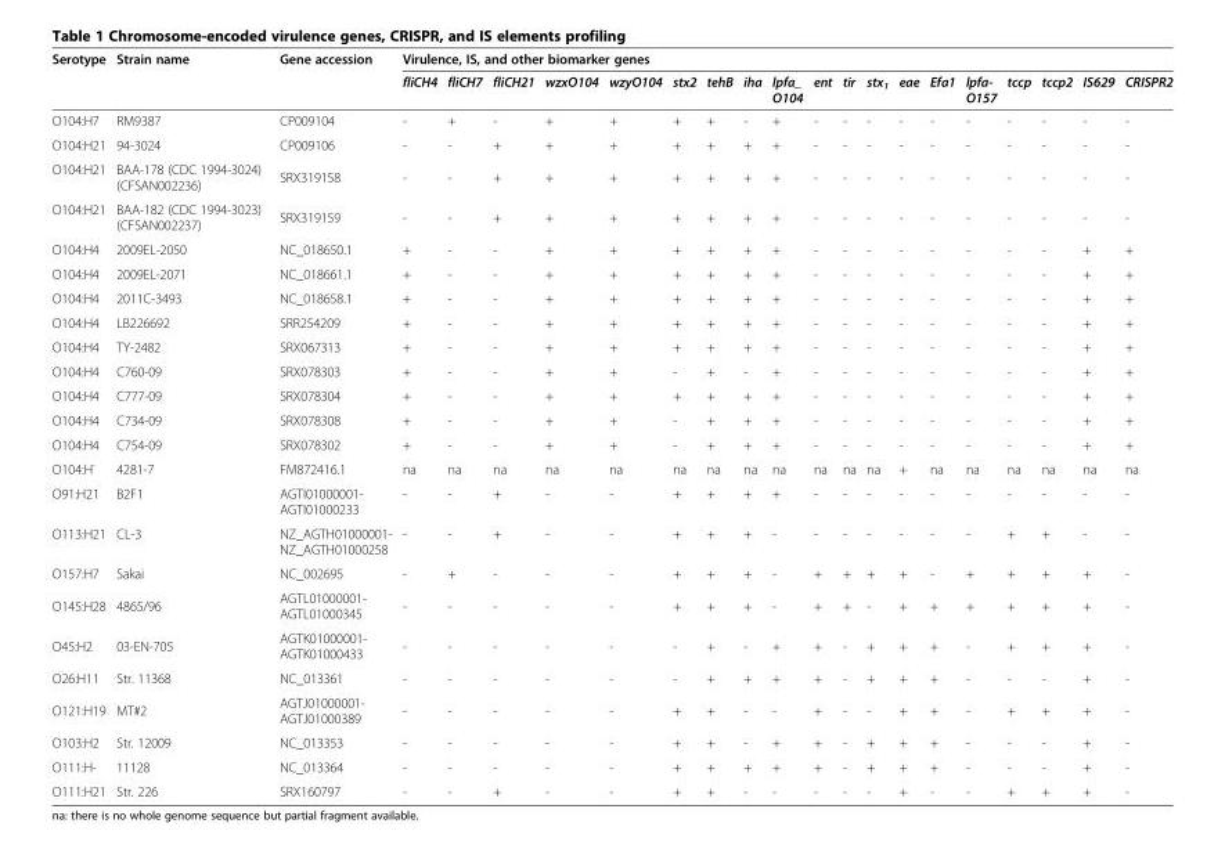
<table><thead><tr><td rowspan="2">Serotype</td><td rowspan="2">Strain name</td><td rowspan="2">Gene accession</td><td colspan="19">Virulence, IS, and other biomarker genes</td></tr><tr><td>fliCH4</td><td>fliCH7</td><td>fliCH21</td><td>wzxO104</td><td>wzyO104</td><td>stx2</td><td>tehB</td><td>iha</td><td>lpfa_ O104</td><td>ent</td><td>tir</td><td>stx<sub>1</sub></td><td>eae</td><td>Efa1</td><td>lpfa- O157</td><td>tccp</td><td>tccp2</td><td>IS629</td><td>CRISPR2</td></tr></thead><tbody><tr><td>O104:H7</td><td>RM9387</td><td>CP009104</td><td>-</td><td>+</td><td>-</td><td>+</td><td>+</td><td>+</td><td>+</td><td>-</td><td>+</td><td>-</td><td>-</td><td>-</td><td>-</td><td>-</td><td>-</td><td>-</td><td>-</td><td>-</td><td>-</td></tr><tr><td>O104:H21</td><td>94-3024</td><td>CP009106</td><td>-</td><td>-</td><td>+</td><td>+</td><td>+</td><td>+</td><td>+</td><td>+</td><td>+</td><td>-</td><td>-</td><td>-</td><td>-</td><td>-</td><td>-</td><td>-</td><td>-</td><td>-</td><td>-</td></tr><tr><td>O104:H21</td><td>BAA-178 (CDC 1994-3024) (CFSAN002236)</td><td>SRX319158</td><td>-</td><td>-</td><td>+</td><td>+</td><td>+</td><td>+</td><td>+</td><td>+</td><td>+</td><td>-</td><td>-</td><td>-</td><td>-</td><td>-</td><td>-</td><td>-</td><td>-</td><td>-</td><td>-</td></tr><tr><td>O104:H21</td><td>BAA-182 (CDC 1994-3023) (CFSAN002237)</td><td>SRX319159</td><td>-</td><td>-</td><td>+</td><td>+</td><td>+</td><td>+</td><td>+</td><td>+</td><td>+</td><td>-</td><td>-</td><td>-</td><td>-</td><td>-</td><td>-</td><td>-</td><td>-</td><td>-</td><td>-</td></tr><tr><td>O104:H4</td><td>2009EL-2050</td><td>NC_018650.1</td><td>+</td><td>-</td><td>-</td><td>+</td><td>+</td><td>+</td><td>+</td><td>+</td><td>+</td><td>-</td><td>-</td><td>-</td><td>-</td><td>-</td><td>-</td><td>-</td><td>-</td><td>+</td><td>+</td></tr><tr><td>O104:H4</td><td>2009EL-2071</td><td>NC_018661.1</td><td>+</td><td>-</td><td>-</td><td>+</td><td>+</td><td>+</td><td>+</td><td>+</td><td>+</td><td>-</td><td>-</td><td>-</td><td>-</td><td>-</td><td>-</td><td>-</td><td>-</td><td>+</td><td>+</td></tr><tr><td>O104:H4</td><td>2011C-3493</td><td>NC_018658.1</td><td>+</td><td>-</td><td>-</td><td>+</td><td>+</td><td>+</td><td>+</td><td>+</td><td>+</td><td>-</td><td>-</td><td>-</td><td>-</td><td>-</td><td>-</td><td>-</td><td>-</td><td>+</td><td>+</td></tr><tr><td>O104:H4</td><td>LB226692</td><td>SRR254209</td><td>+</td><td>-</td><td>-</td><td>+</td><td>+</td><td>+</td><td>+</td><td>+</td><td>+</td><td>-</td><td>-</td><td>-</td><td>-</td><td>-</td><td>-</td><td>-</td><td>-</td><td>+</td><td>+</td></tr><tr><td>O104:H4</td><td>TY-2482</td><td>SRX067313</td><td>+</td><td>-</td><td>-</td><td>+</td><td>+</td><td>+</td><td>+</td><td>+</td><td>+</td><td>-</td><td>-</td><td>-</td><td>-</td><td>-</td><td>-</td><td>-</td><td>-</td><td>+</td><td>+</td></tr><tr><td>O104:H4</td><td>C760-09</td><td>SRX078303</td><td>+</td><td>-</td><td>-</td><td>+</td><td>+</td><td>-</td><td>+</td><td>-</td><td>+</td><td>-</td><td>-</td><td>-</td><td>-</td><td>-</td><td>-</td><td>-</td><td>-</td><td>+</td><td>+</td></tr><tr><td>O104:H4</td><td>C777-09</td><td>SRX078304</td><td>+</td><td>-</td><td>-</td><td>+</td><td>+</td><td>+</td><td>+</td><td>+</td><td>+</td><td>-</td><td>-</td><td>-</td><td>-</td><td>-</td><td>-</td><td>-</td><td>-</td><td>+</td><td>+</td></tr><tr><td>O104:H4</td><td>C734-09</td><td>SRX078308</td><td>+</td><td>-</td><td>-</td><td>+</td><td>+</td><td>-</td><td>+</td><td>+</td><td>+</td><td>-</td><td>-</td><td>-</td><td>-</td><td>-</td><td>-</td><td>-</td><td>-</td><td>+</td><td>+</td></tr><tr><td>O104:H4</td><td>C754-09</td><td>SRX078302</td><td>+</td><td>-</td><td>-</td><td>+</td><td>+</td><td>-</td><td>+</td><td>+</td><td>+</td><td>-</td><td>-</td><td>-</td><td>-</td><td>-</td><td>-</td><td>-</td><td>-</td><td>+</td><td>+</td></tr><tr><td>O104:H<sup>-</sup></td><td>4281-7</td><td>FM872416.1</td><td>na</td><td>na</td><td>na</td><td>na</td><td>na</td><td>na</td><td>na</td><td>na</td><td>na</td><td>na</td><td>na</td><td>na</td><td>+</td><td>na</td><td>na</td><td>na</td><td>na</td><td>na</td><td>na</td></tr><tr><td>O91:H21</td><td>B2F1</td><td>AGTI01000001- AGTI01000233</td><td>-</td><td>-</td><td>+</td><td>-</td><td>-</td><td>+</td><td>+</td><td>+</td><td>+</td><td>-</td><td>-</td><td>-</td><td>-</td><td>-</td><td>-</td><td>-</td><td>-</td><td>-</td><td>-</td></tr><tr><td>O113:H21</td><td>CL-3</td><td>NZ_AGTH01000001- NZ_AGTH01000258</td><td>-</td><td>-</td><td>+</td><td>-</td><td>-</td><td>+</td><td>+</td><td>+</td><td>-</td><td>-</td><td>-</td><td>-</td><td>-</td><td>-</td><td>-</td><td>+</td><td>+</td><td>-</td><td>-</td></tr><tr><td>O157:H7</td><td>Sakai</td><td>NC_002695</td><td>-</td><td>+</td><td>-</td><td>-</td><td>-</td><td>+</td><td>+</td><td>+</td><td>-</td><td>+</td><td>+</td><td>+</td><td>+</td><td>-</td><td>+</td><td>+</td><td>+</td><td>+</td><td>-</td></tr><tr><td>O145:H28</td><td>4865/96</td><td>AGTL01000001- AGTL01000345</td><td>-</td><td>-</td><td>-</td><td>-</td><td>-</td><td>+</td><td>+</td><td>+</td><td>-</td><td>+</td><td>+</td><td>-</td><td>+</td><td>+</td><td>+</td><td>+</td><td>+</td><td>+</td><td>-</td></tr><tr><td>O45:H2</td><td>03-EN-705</td><td>AGTK01000001- AGTK01000433</td><td>-</td><td>-</td><td>-</td><td>-</td><td>-</td><td>-</td><td>+</td><td>-</td><td>+</td><td>+</td><td>-</td><td>+</td><td>+</td><td>+</td><td>-</td><td>+</td><td>+</td><td>+</td><td>-</td></tr><tr><td>O26:H11</td><td>Str. 11368</td><td>NC_013361</td><td>-</td><td>-</td><td>-</td><td>-</td><td>-</td><td>-</td><td>+</td><td>+</td><td>+</td><td>+</td><td>-</td><td>+</td><td>+</td><td>+</td><td>-</td><td>-</td><td>-</td><td>+</td><td>-</td></tr><tr><td>O121:H19</td><td>MT#2</td><td>AGTJ01000001- AGTJ01000389</td><td>-</td><td>-</td><td>-</td><td>-</td><td>-</td><td>+</td><td>+</td><td>-</td><td>-</td><td>+</td><td>-</td><td>-</td><td>+</td><td>+</td><td>-</td><td>+</td><td>+</td><td>+</td><td>-</td></tr><tr><td>O103:H2</td><td>Str. 12009</td><td>NC_013353</td><td>-</td><td>-</td><td>-</td><td>-</td><td>-</td><td>+</td><td>+</td><td>-</td><td>+</td><td>+</td><td>-</td><td>+</td><td>+</td><td>+</td><td>-</td><td>-</td><td>-</td><td>+</td><td>-</td></tr><tr><td>O111:H-</td><td>11128</td><td>NC_013364</td><td>-</td><td>-</td><td>-</td><td>-</td><td>-</td><td>+</td><td>+</td><td>+</td><td>+</td><td>+</td><td>-</td><td>+</td><td>+</td><td>+</td><td>-</td><td>-</td><td>-</td><td>+</td><td>-</td></tr><tr><td>O111:H21</td><td>Str. 226</td><td>SRX160797</td><td>-</td><td>-</td><td>+</td><td>-</td><td>-</td><td>+</td><td>+</td><td>-</td><td>-</td><td>-</td><td>-</td><td>-</td><td>+</td><td>-</td><td>-</td><td>+</td><td>+</td><td>+</td><td>-</td></tr></tbody></table>